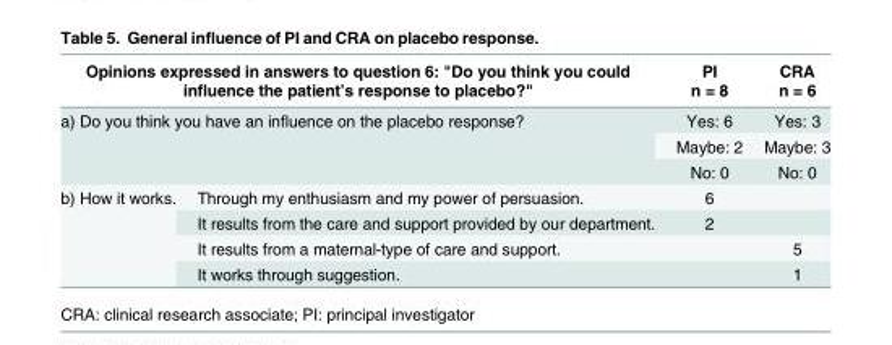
<table><thead><tr><td rowspan="2" colspan="2">Opinions expressed in answers to question 6: &quot;Do you think you could influence the patient’s response to placebo?&quot;</td><td rowspan="2">PI n = 8</td><td rowspan="2">CRA n = 6</td></tr><tr></tr></thead><tbody><tr><td rowspan="3" colspan="2">a) Do you think you have an influence on the placebo response?</td><td>Yes: 6</td><td>Yes: 3</td></tr><tr><td>Maybe: 2</td><td>Maybe: 3</td></tr><tr><td>No: 0</td><td>No: 0</td></tr><tr><td rowspan="4">b) How it works.</td><td>Through my enthusiasm and my power of persuasion.</td><td>6</td><td></td></tr><tr><td>It results from the care and support provided by our department.</td><td>2</td><td></td></tr><tr><td>It results from a maternal-type of care and support.</td><td></td><td>5</td></tr><tr><td>It works through suggestion.</td><td></td><td>1</td></tr></tbody></table>